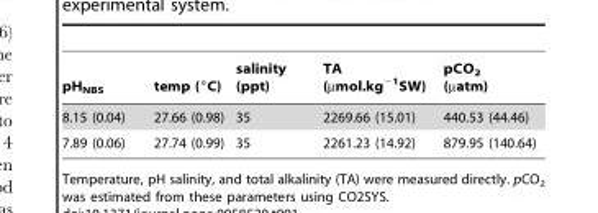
<table><thead><tr><td>pH<sub>NBS</sub></td><td>temp (°C)</td><td>salinity (ppt)</td><td>TA (µmol.kg<sup>−1</sup>SW)</td><td>pCO<sub>2</sub> (µatm)</td></tr></thead><tbody><tr><td>8.15 (0.04)</td><td>27.66 (0.98)</td><td>35</td><td>2269.66 (15.01)</td><td>440.53 (44.46)</td></tr><tr><td>7.89 (0.06)</td><td>27.74 (0.99)</td><td>35</td><td>2261.23 (14.92)</td><td>879.95 (140.64)</td></tr></tbody></table>